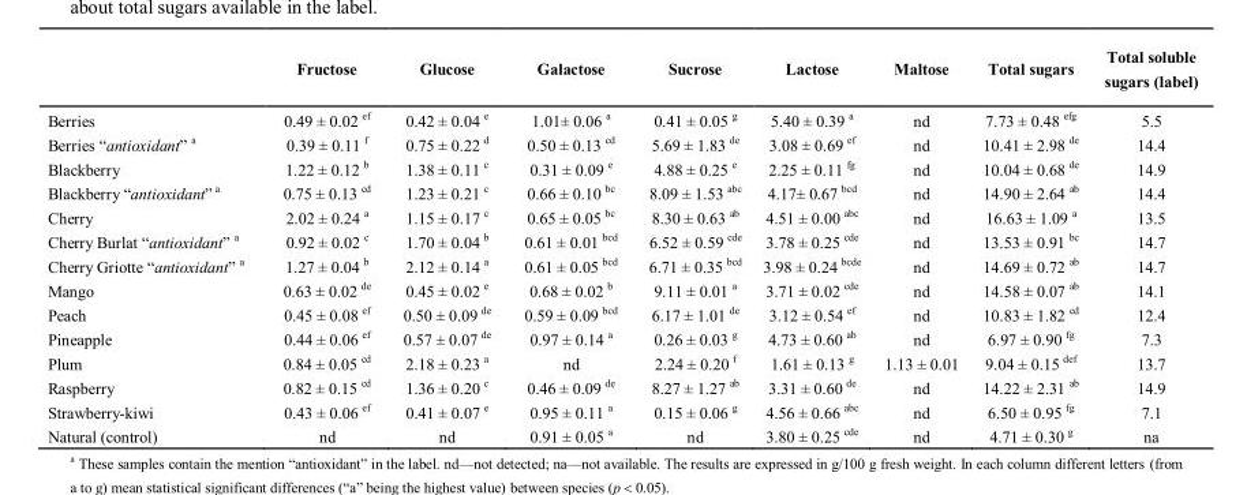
<table><thead><tr><td></td><td>Fructose</td><td>Glucose</td><td>Galactose</td><td>Sucrose</td><td>Lactose</td><td>Maltose</td><td>Total sugars</td><td>Total soluble sugars (label)</td></tr></thead><tbody><tr><td>Berries</td><td>0.49 ± 0.02 <sup>ef</sup></td><td>0.42 ± 0.04 <sup>e</sup></td><td>1.01± 0.06 <sup>a</sup></td><td>0.41 ± 0.05 <sup>g</sup></td><td>5.40 ± 0.39 <sup>a</sup></td><td>nd</td><td>7.73 ± 0.48 <sup>efg</sup></td><td>5.5</td></tr><tr><td>Berries ―antioxidant‖ a</td><td>0.39 ± 0.11 <sup>f</sup></td><td>0.75 ± 0.22 <sup>d</sup></td><td>0.50 ± 0.13 <sup>cd</sup></td><td>5.69 ± 1.83 <sup>de</sup></td><td>3.08 ± 0.69 <sup>ef</sup></td><td>nd</td><td>10.41 ± 2.98 <sup>de</sup></td><td>14.4</td></tr><tr><td>Blackberry</td><td>1.22 ± 0.12 <sup>b</sup></td><td>1.38 ± 0.11 <sup>c</sup></td><td>0.31 ± 0.09 <sup>e</sup></td><td>4.88 ± 0.25 <sup>e</sup></td><td>2.25 ± 0.11 <sup>fg</sup></td><td>nd</td><td>10.04 ± 0.68 <sup>de</sup></td><td>14.9</td></tr><tr><td>Blackberry ―antioxidant‖ a</td><td>0.75 ± 0.13 <sup>cd</sup></td><td>1.23 ± 0.21 <sup>c</sup></td><td>0.66 ± 0.10 <sup>bc</sup></td><td>8.09 ± 1.53 <sup>abc</sup></td><td>4.17± 0.67 <sup>bcd</sup></td><td>nd</td><td>14.90 ± 2.64 <sup>ab</sup></td><td>14.4</td></tr><tr><td>Cherry</td><td>2.02 ± 0.24 <sup>a</sup></td><td>1.15 ± 0.17 <sup>c</sup></td><td>0.65 ± 0.05 <sup>bc</sup></td><td>8.30 ± 0.63 <sup>ab</sup></td><td>4.51 ± 0.00 <sup>abc</sup></td><td>nd</td><td>16.63 ± 1.09 <sup>a</sup></td><td>13.5</td></tr><tr><td>Cherry Burlat ―antioxidant‖ a</td><td>0.92 ± 0.02 <sup>c</sup></td><td>1.70 ± 0.04 <sup>b</sup></td><td>0.61 ± 0.01 <sup>bcd</sup></td><td>6.52 ± 0.59 <sup>cde</sup></td><td>3.78 ± 0.25 <sup>cde</sup></td><td>nd</td><td>13.53 ± 0.91 <sup>bc</sup></td><td>14.7</td></tr><tr><td>Cherry Griotte ―antioxidant‖ a</td><td>1.27 ± 0.04 <sup>b</sup></td><td>2.12 ± 0.14 <sup>a</sup></td><td>0.61 ± 0.05 <sup>bcd</sup></td><td>6.71 ± 0.35 <sup>bcd</sup></td><td>3.98 ± 0.24 <sup>bcde</sup></td><td>nd</td><td>14.69 ± 0.72 <sup>ab</sup></td><td>14.7</td></tr><tr><td>Mango</td><td>0.63 ± 0.02 <sup>de</sup></td><td>0.45 ± 0.02 <sup>e</sup></td><td>0.68 ± 0.02 <sup>b</sup></td><td>9.11 ± 0.01 <sup>a</sup></td><td>3.71 ± 0.02 <sup>cde</sup></td><td>nd</td><td>14.58 ± 0.07 <sup>ab</sup></td><td>14.1</td></tr><tr><td>Peach</td><td>0.45 ± 0.08 <sup>ef</sup></td><td>0.50 ± 0.09 <sup>de</sup></td><td>0.59 ± 0.09 <sup>bcd</sup></td><td>6.17 ± 1.01 <sup>de</sup></td><td>3.12 ± 0.54 <sup>ef</sup></td><td>nd</td><td>10.83 ± 1.82 <sup>cd</sup></td><td>12.4</td></tr><tr><td>Pineapple</td><td>0.44 ± 0.06 <sup>ef</sup></td><td>0.57 ± 0.07 <sup>de</sup></td><td>0.97 ± 0.14 <sup>a</sup></td><td>0.26 ± 0.03 <sup>g</sup></td><td>4.73 ± 0.60 <sup>ab</sup></td><td>nd</td><td>6.97 ± 0.90 <sup>fg</sup></td><td>7.3</td></tr><tr><td>Plum</td><td>0.84 ± 0.05 <sup>cd</sup></td><td>2.18 ± 0.23 <sup>a</sup></td><td>nd</td><td>2.24 ± 0.20 <sup>f</sup></td><td>1.61 ± 0.13 <sup>g</sup></td><td>1.13 ± 0.01</td><td>9.04 ± 0.15 <sup>def</sup></td><td>13.7</td></tr><tr><td>Raspberry</td><td>0.82 ± 0.15 <sup>cd</sup></td><td>1.36 ± 0.20 <sup>c</sup></td><td>0.46 ± 0.09 <sup>de</sup></td><td>8.27 ± 1.27 <sup>ab</sup></td><td>3.31 ± 0.60 <sup>de</sup></td><td>nd</td><td>14.22 ± 2.31 <sup>ab</sup></td><td>14.9</td></tr><tr><td>Strawberry-kiwi</td><td>0.43 ± 0.06 <sup>ef</sup></td><td>0.41 ± 0.07 <sup>e</sup></td><td>0.95 ± 0.11 <sup>a</sup></td><td>0.15 ± 0.06 <sup>g</sup></td><td>4.56 ± 0.66 <sup>abc</sup></td><td>nd</td><td>6.50 ± 0.95 <sup>fg</sup></td><td>7.1</td></tr><tr><td>Natural (control)</td><td>nd</td><td>nd</td><td>0.91 ± 0.05 <sup>a</sup></td><td>nd</td><td>3.80 ± 0.25 <sup>cde</sup></td><td>nd</td><td>4.71 ± 0.30 <sup>g</sup></td><td>na</td></tr></tbody></table>